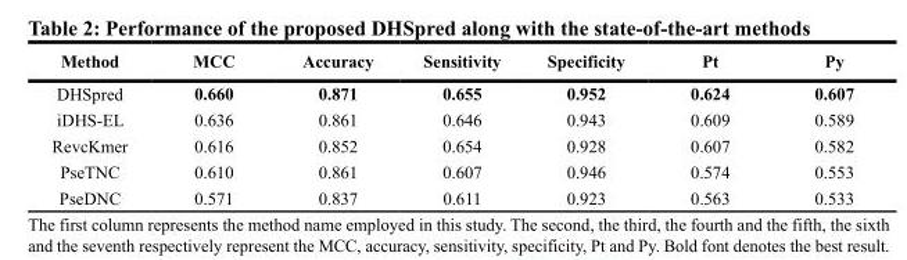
<table><thead><tr><td>Method</td><td>MCC</td><td>Accuracy</td><td>Sensitivity</td><td>Specificity</td><td>Pt</td><td>Py</td></tr></thead><tbody><tr><td>DHSpred</td><td>0.660</td><td>0.871</td><td>0.655</td><td>0.952</td><td>0.624</td><td>0.607</td></tr><tr><td>iDHS-EL</td><td>0.636</td><td>0.861</td><td>0.646</td><td>0.943</td><td>0.609</td><td>0.589</td></tr><tr><td>RevcKmer</td><td>0.616</td><td>0.852</td><td>0.654</td><td>0.928</td><td>0.607</td><td>0.582</td></tr><tr><td>PseTNC</td><td>0.610</td><td>0.861</td><td>0.607</td><td>0.946</td><td>0.574</td><td>0.553</td></tr><tr><td>PseDNC</td><td>0.571</td><td>0.837</td><td>0.611</td><td>0.923</td><td>0.563</td><td>0.533</td></tr></tbody></table>